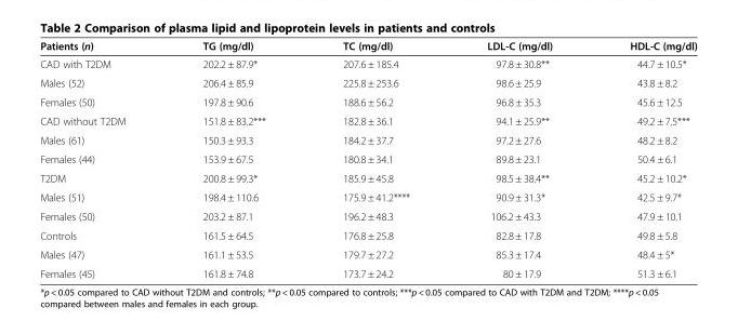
<table><thead><tr><td>Patients (n)</td><td>TG (mg/dl)</td><td>TC (mg/dl)</td><td>LDL-C (mg/dl)</td><td>HDL-C (mg/dl)</td></tr></thead><tbody><tr><td>CAD with T2DM</td><td>202.2 ± 87.9*</td><td>207.6 ± 185.4</td><td>97.8 ± 30.8**</td><td>44.7 ± 10.5*</td></tr><tr><td>Males (52)</td><td>206.4 ± 85.9</td><td>225.8 ± 253.6</td><td>98.6 ± 25.9</td><td>43.8 ± 8.2</td></tr><tr><td>Females (50)</td><td>197.8 ± 90.6</td><td>188.6 ± 56.2</td><td>96.8 ± 35.3</td><td>45.6 ± 12.5</td></tr><tr><td>CAD without T2DM</td><td>151.8 ± 83.2***</td><td>182.8 ± 36.1</td><td>94.1 ± 25.9**</td><td>49.2 ± 7.5***</td></tr><tr><td>Males (61)</td><td>150.3 ± 93.3</td><td>184.2 ± 37.7</td><td>97.2 ± 27.6</td><td>48.2 ± 8.2</td></tr><tr><td>Females (44)</td><td>153.9 ± 67.5</td><td>180.8 ± 34.1</td><td>89.8 ± 23.1</td><td>50.4 ± 6.1</td></tr><tr><td>T2DM</td><td>200.8 ± 99.3*</td><td>185.9 ± 45.8</td><td>98.5 ± 38.4**</td><td>45.2 ± 10.2*</td></tr><tr><td>Males (51)</td><td>198.4 ± 110.6</td><td>175.9 ± 41.2****</td><td>90.9 ± 31.3*</td><td>42.5 ± 9.7*</td></tr><tr><td>Females (50)</td><td>203.2 ± 87.1</td><td>196.2 ± 48.3</td><td>106.2 ± 43.3</td><td>47.9 ± 10.1</td></tr><tr><td>Controls</td><td>161.5 ± 64.5</td><td>176.8 ± 25.8</td><td>82.8 ± 17.8</td><td>49.8 ± 5.8</td></tr><tr><td>Males (47)</td><td>161.1 ± 53.5</td><td>179.7 ± 27.2</td><td>85.3 ± 17.4</td><td>48.4 ± 5*</td></tr><tr><td>Females (45)</td><td>161.8 ± 74.8</td><td>173.7 ± 24.2</td><td>80 ± 17.9</td><td>51.3 ± 6.1</td></tr></tbody></table>